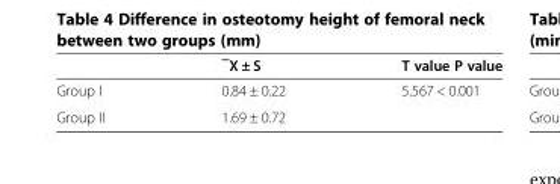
<table><thead><tr><td></td><td>‾X ± S</td><td>T value P value</td></tr></thead><tbody><tr><td>Group I</td><td>0.84 ± 0.22</td><td>5.567 &lt; 0.001</td></tr><tr><td>Group II</td><td>1.69 ± 0.72</td><td></td></tr></tbody></table>